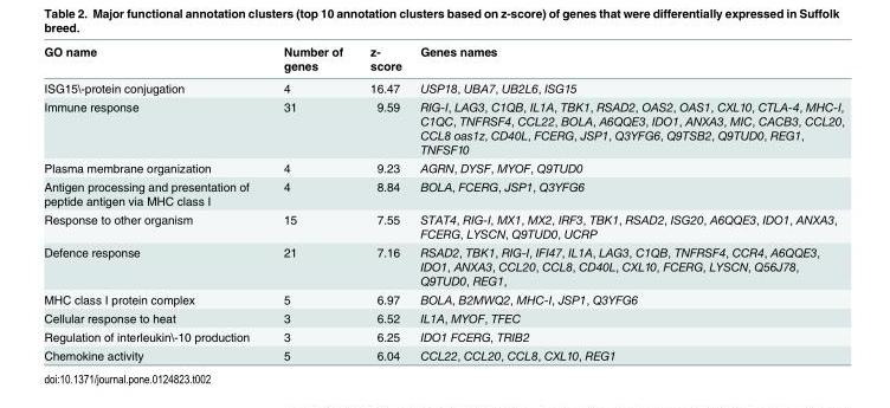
<table><thead><tr><td>GO name</td><td>Number of genes</td><td>z- score</td><td>Genes names</td></tr></thead><tbody><tr><td>ISG15\-protein conjugation</td><td>4</td><td>16.47</td><td>USP18, UBA7, UB2L6, ISG15</td></tr><tr><td>Immune response</td><td>31</td><td>9.59</td><td>RIG-I, LAG3, C1QB, IL1A, TBK1, RSAD2, OAS2, OAS1, CXL10, CTLA-4, MHC-I, C1QC, TNFRSF4, CCL22, BOLA, A6QQE3, IDO1, ANXA3, MIC, CACB3, CCL20, CCL8 oas1z, CD40L, FCERG, JSP1, Q3YFG6, Q9TSB2, Q9TUD0, REG1, TNFSF10</td></tr><tr><td>Plasma membrane organization</td><td>4</td><td>9.23</td><td>AGRN, DYSF, MYOF, Q9TUD0</td></tr><tr><td>Antigen processing and presentation of peptide antigen via MHC class I</td><td>4</td><td>8.84</td><td>BOLA, FCERG, JSP1, Q3YFG6</td></tr><tr><td>Response to other organism</td><td>15</td><td>7.55</td><td>STAT4, RIG-I, MX1, MX2, IRF3, TBK1, RSAD2, ISG20, A6QQE3, IDO1, ANXA3, FCERG, LYSCN, Q9TUD0, UCRP</td></tr><tr><td>Defence response</td><td>21</td><td>7.16</td><td>RSAD2, TBK1, RIG-I, IFI47, IL1A, LAG3, C1QB, TNFRSF4, CCR4, A6QQE3, IDO1, ANXA3, CCL20, CCL8, CD40L, CXL10, FCERG, LYSCN, Q56J78, Q9TUD0, REG1,</td></tr><tr><td>MHC class I protein complex</td><td>5</td><td>6.97</td><td>BOLA, B2MWQ2, MHC-I, JSP1, Q3YFG6</td></tr><tr><td>Cellular response to heat</td><td>3</td><td>6.52</td><td>IL1A, MYOF, TFEC</td></tr><tr><td>Regulation of interleukin\-10 production</td><td>3</td><td>6.25</td><td>IDO1 FCERG, TRIB2</td></tr><tr><td>Chemokine activity</td><td>5</td><td>6.04</td><td>CCL22, CCL20, CCL8, CXL10, REG1</td></tr></tbody></table>